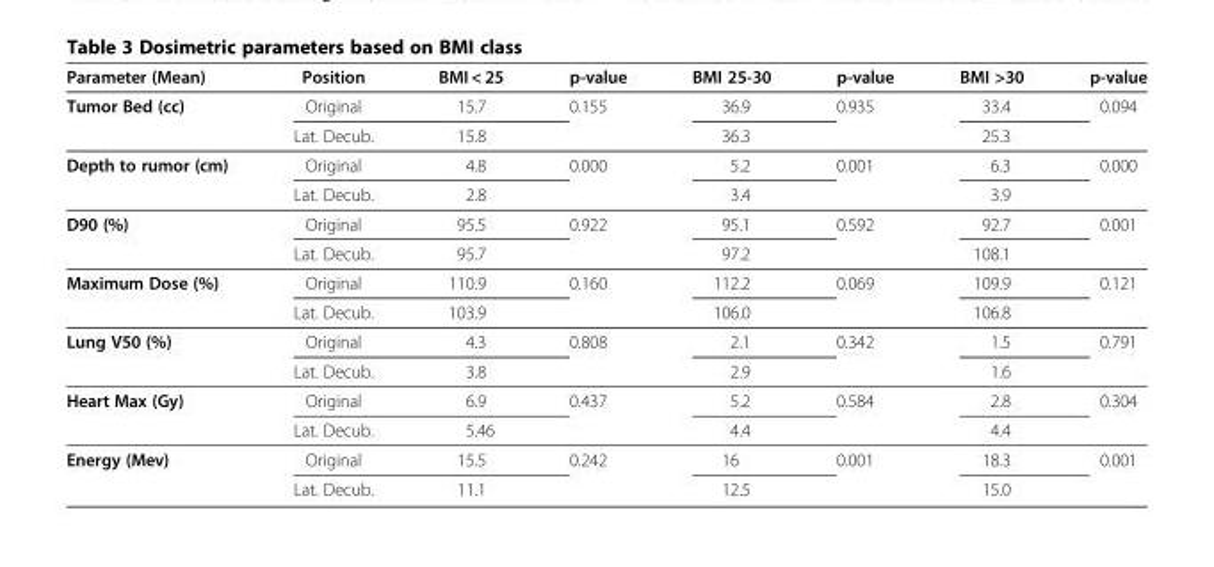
<table><thead><tr><td>Parameter (Mean)</td><td>Position</td><td>BMI &lt; 25</td><td>p-value</td><td>BMI 25-30</td><td>p-value</td><td>BMI &gt;30</td><td>p-value</td></tr></thead><tbody><tr><td rowspan="2">Tumor Bed (cc)</td><td>Original</td><td>15.7</td><td rowspan="2">0.155</td><td>36.9</td><td rowspan="2">0.935</td><td>33.4</td><td rowspan="2">0.094</td></tr><tr><td>Lat. Decub.</td><td>15.8</td><td>36.3</td><td>25.3</td></tr><tr><td rowspan="2">Depth to rumor (cm)</td><td>Original</td><td>4.8</td><td rowspan="2">0.000</td><td>5.2</td><td rowspan="2">0.001</td><td>6.3</td><td rowspan="2">0.000</td></tr><tr><td>Lat. Decub.</td><td>2.8</td><td>3.4</td><td>3.9</td></tr><tr><td rowspan="2">D90 (%)</td><td>Original</td><td>95.5</td><td rowspan="2">0.922</td><td>95.1</td><td rowspan="2">0.592</td><td>92.7</td><td rowspan="2">0.001</td></tr><tr><td>Lat. Decub.</td><td>95.7</td><td>97.2</td><td>108.1</td></tr><tr><td rowspan="2">Maximum Dose (%)</td><td>Original</td><td>110.9</td><td rowspan="2">0.160</td><td>112.2</td><td rowspan="2">0.069</td><td>109.9</td><td rowspan="2">0.121</td></tr><tr><td>Lat. Decub.</td><td>103.9</td><td>106.0</td><td>106.8</td></tr><tr><td rowspan="2">Lung V50 (%)</td><td>Original</td><td>4.3</td><td rowspan="2">0.808</td><td>2.1</td><td rowspan="2">0.342</td><td>1.5</td><td rowspan="2">0.791</td></tr><tr><td>Lat. Decub.</td><td>3.8</td><td>2.9</td><td>1.6</td></tr><tr><td rowspan="2">Heart Max (Gy)</td><td>Original</td><td>6.9</td><td rowspan="2">0.437</td><td>5.2</td><td rowspan="2">0.584</td><td>2.8</td><td rowspan="2">0.304</td></tr><tr><td>Lat. Decub.</td><td>5.46</td><td>4.4</td><td>4.4</td></tr><tr><td rowspan="2">Energy (Mev)</td><td>Original</td><td>15.5</td><td rowspan="2">0.242</td><td>16</td><td rowspan="2">0.001</td><td>18.3</td><td rowspan="2">0.001</td></tr><tr><td>Lat. Decub.</td><td>11.1</td><td>12.5</td><td>15.0</td></tr></tbody></table>